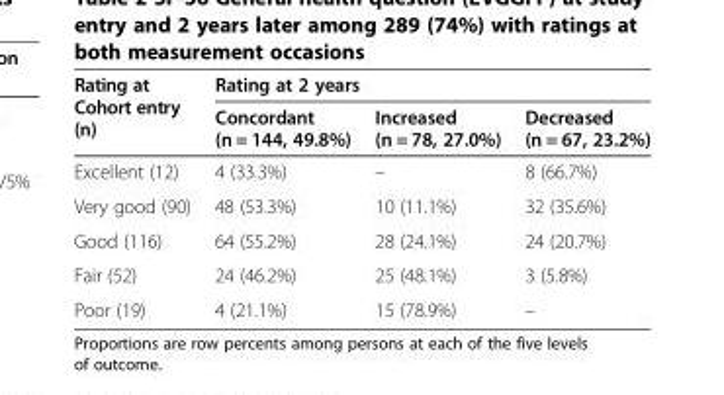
<table><thead><tr><td rowspan="2">Rating at Cohort entry (n)</td><td colspan="3">Rating at 2 years</td></tr><tr><td>Concordant (n = 144, 49.8%)</td><td>Increased (n = 78, 27.0%)</td><td>Decreased (n = 67, 23.2%)</td></tr></thead><tbody><tr><td>Excellent (12)</td><td>4 (33.3%)</td><td>–</td><td>8 (66.7%)</td></tr><tr><td>Very good (90)</td><td>48 (53.3%)</td><td>10 (11.1%)</td><td>32 (35.6%)</td></tr><tr><td>Good (116)</td><td>64 (55.2%)</td><td>28 (24.1%)</td><td>24 (20.7%)</td></tr><tr><td>Fair (52)</td><td>24 (46.2%)</td><td>25 (48.1%)</td><td>3 (5.8%)</td></tr><tr><td>Poor (19)</td><td>4 (21.1%)</td><td>15 (78.9%)</td><td>–</td></tr></tbody></table>